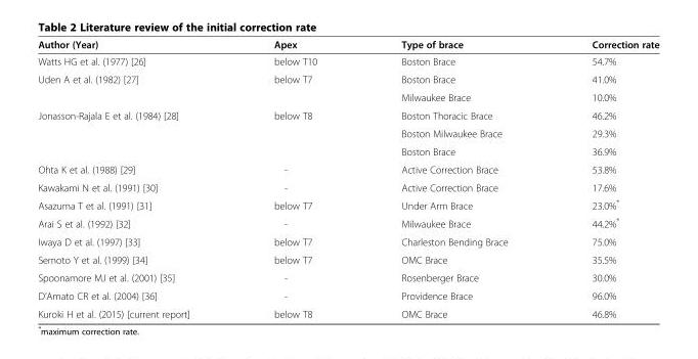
<table><thead><tr><td>Author (Year)</td><td>Apex</td><td>Type of brace</td><td>Correction rate</td></tr></thead><tbody><tr><td>Watts HG et al. (1977) [26]</td><td>below T10</td><td>Boston Brace</td><td>54.7%</td></tr><tr><td rowspan="2">Uden A et al. (1982) [27]</td><td>below T7</td><td>Boston Brace</td><td>41.0%</td></tr><tr><td></td><td>Milwaukee Brace</td><td>10.0%</td></tr><tr><td rowspan="3">Jonasson-Rajala E et al. (1984) [28]</td><td>below T8</td><td>Boston Thoracic Brace</td><td>46.2%</td></tr><tr><td></td><td>Boston Milwaukee Brace</td><td>29.3%</td></tr><tr><td></td><td>Boston Brace</td><td>36.9%</td></tr><tr><td>Ohta K et al. (1988) [29]</td><td>-</td><td>Active Correction Brace</td><td>53.8%</td></tr><tr><td>Kawakami N et al. (1991) [30]</td><td>-</td><td>Active Correction Brace</td><td>17.6%</td></tr><tr><td>Asazuma T et al. (1991) [31]</td><td>below T7</td><td>Under Arm Brace</td><td>23.0%*</td></tr><tr><td>Arai S et al. (1992) [32]</td><td>-</td><td>Milwaukee Brace</td><td>44.2%*</td></tr><tr><td>Iwaya D et al. (1997) [33]</td><td>below T7</td><td>Charleston Bending Brace</td><td>75.0%</td></tr><tr><td>Semoto Y et al. (1999) [34]</td><td>below T7</td><td>OMC Brace</td><td>35.5%</td></tr><tr><td>Spoonamore MJ et al. (2001) [35]</td><td>-</td><td>Rosenberger Brace</td><td>30.0%</td></tr><tr><td>D’Amato CR et al. (2004) [36]</td><td>-</td><td>Providence Brace</td><td>96.0%</td></tr><tr><td>Kuroki H et al. (2015) [current report]</td><td>below T8</td><td>OMC Brace</td><td>46.8%</td></tr></tbody></table>